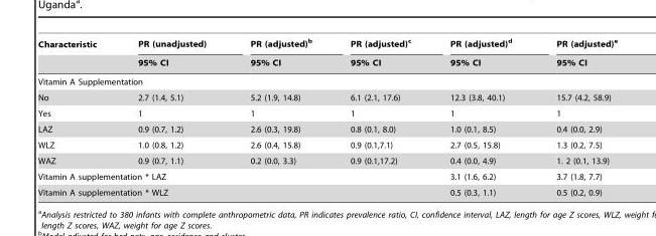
<table><thead><tr><td rowspan="2">Characteristic</td><td rowspan="2">PR (unadjusted) 95% CI</td><td rowspan="2">PR (adjusted)<sup>b</sup> 95% CI</td><td rowspan="2">PR (adjusted)<sup>c</sup> 95% CI</td><td rowspan="2">PR (adjusted)<sup>d</sup> 95% CI</td><td rowspan="2">PR (adjusted)<sup>e</sup> 95% CI</td></tr><tr></tr></thead><tbody><tr><td colspan="6">Vitamin A Supplementation</td></tr><tr><td>No</td><td>2.7 (1.4, 5.1)</td><td>5.2 (1.9, 14.8)</td><td>6.1 (2.1, 17.6)</td><td>12.3 (3.8, 40.1)</td><td>15.7 (4.2, 58.9)</td></tr><tr><td>Yes</td><td>1</td><td>1</td><td>1</td><td>1</td><td>1</td></tr><tr><td>LAZ</td><td>0.9 (0.7, 1.2)</td><td>2.6 (0.3, 19.8)</td><td>0.8 (0.1, 8.0)</td><td>1.0 (0.1, 8.5)</td><td>0.4 (0.0, 2.9)</td></tr><tr><td>WLZ</td><td>1.0 (0.8, 1.2)</td><td>2.6 (0.4, 15.8)</td><td>0.9 (0.1,7.1)</td><td>2.7 (0.5, 15.8)</td><td>1.3 (0.2, 7.5)</td></tr><tr><td>WAZ</td><td>0.9 (0.7, 1.1)</td><td>0.2 (0.0, 3.3)</td><td>0.9 (0.1,17.2)</td><td>0.4 (0.0, 4.9)</td><td>1. 2 (0.1, 13.9)</td></tr><tr><td colspan="4">Vitamin A supplementation * LAZ</td><td>3.1 (1.6, 6.2)</td><td>3.7 (1.8, 7.7)</td></tr><tr><td colspan="4">Vitamin A supplementation * WLZ</td><td>0.5 (0.3, 1.1)</td><td>0.5 (0.2, 0.9)</td></tr></tbody></table>